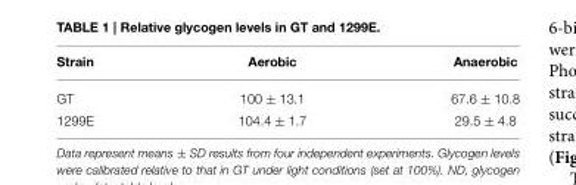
<table><thead><tr><td>Strain</td><td>Aerobic</td><td>Anaerobic</td></tr></thead><tbody><tr><td>GT</td><td>100 ± 13.1</td><td>67.6 ± 10.8</td></tr><tr><td>1299E</td><td>104.4 ± 1.7</td><td>29.5 ± 4.8</td></tr></tbody></table>